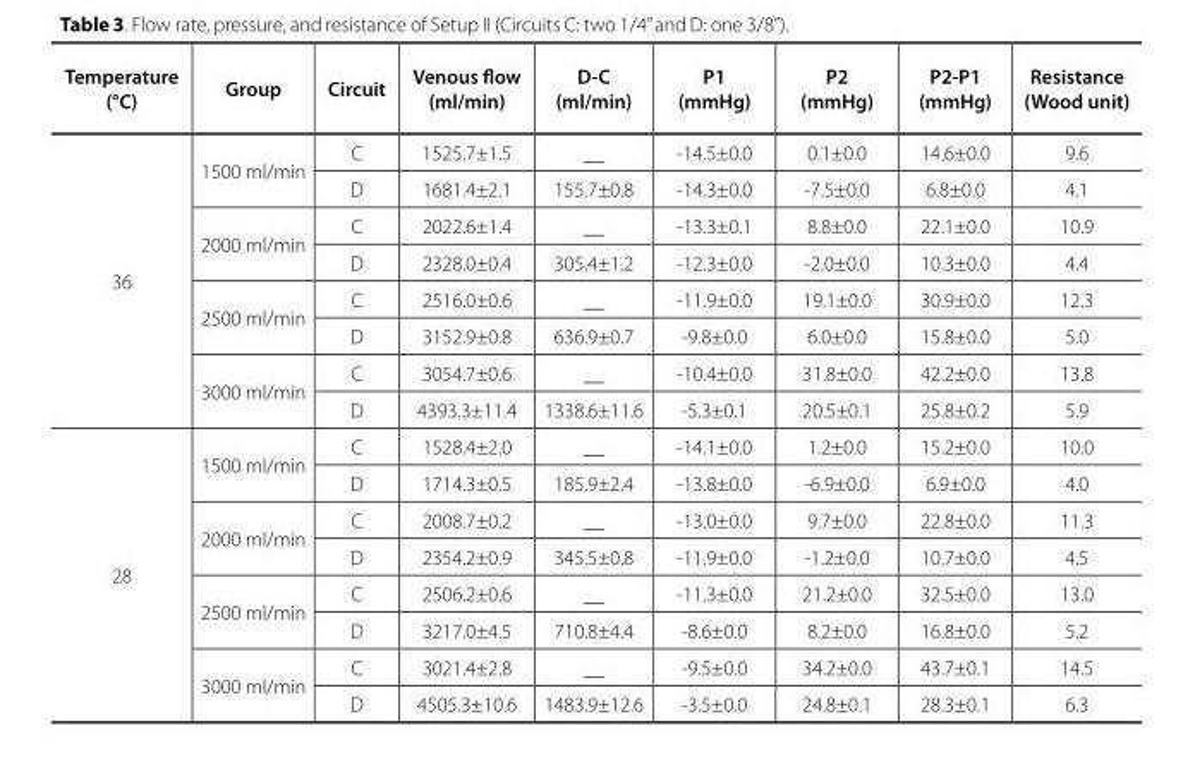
<table><thead><tr><td>Temperature (°C)</td><td>Group</td><td>Circuit</td><td>Venous flow (ml/min)</td><td>D-C (ml/min)</td><td>P1 (mmHg)</td><td>P2 (mmHg)</td><td>P2-P1 (mmHg)</td><td>Resistance (Wood unit)</td></tr></thead><tbody><tr><td rowspan="8">36</td><td rowspan="2">1500 ml/min</td><td>C</td><td>1525.7±1.5</td><td>__</td><td>-14.5±0.0</td><td>0.1±0.0</td><td>14.6±0.0</td><td>9.6</td></tr><tr><td>D</td><td>1681.4±2.1</td><td>155.7±0.8</td><td>-14.3±0.0</td><td>-7.5±0.0</td><td>6.8±0.0</td><td>4.1</td></tr><tr><td rowspan="2">2000 ml/min</td><td>C</td><td>2022.6±1.4</td><td>__</td><td>-13.3±0.1</td><td>8.8±0.0</td><td>22.1±0.0</td><td>10.9</td></tr><tr><td>D</td><td>2328.0±0.4</td><td>305.4±1.2</td><td>-12.3±0.0</td><td>-2.0±0.0</td><td>10.3±0.0</td><td>4.4</td></tr><tr><td rowspan="2">2500 ml/min</td><td>C</td><td>2516.0±0.6</td><td>__</td><td>-11.9±0.0</td><td>19.1±0.0</td><td>30.9±0.0</td><td>12.3</td></tr><tr><td>D</td><td>3152.9±0.8</td><td>636.9±0.7</td><td>-9.8±0.0</td><td>6.0±0.0</td><td>15.8±0.0</td><td>5.0</td></tr><tr><td rowspan="2">3000 ml/min</td><td>C</td><td>3054.7±0.6</td><td>__</td><td>-10.4±0.0</td><td>31.8±0.0</td><td>42.2±0.0</td><td>13.8</td></tr><tr><td>D</td><td>4393.3±11.4</td><td>1338.6±11.6</td><td>-5.3±0.1</td><td>20.5±0.1</td><td>25.8±0.2</td><td>5.9</td></tr><tr><td rowspan="8">28</td><td rowspan="2">1500 ml/min</td><td>C</td><td>1528.4±2.0</td><td>__</td><td>-14.1±0.0</td><td>1.2±0.0</td><td>15.2±0.0</td><td>10.0</td></tr><tr><td>D</td><td>1714.3±0.5</td><td>185.9±2.4</td><td>-13.8±0.0</td><td>-6.9±0.0</td><td>6.9±0.0</td><td>4.0</td></tr><tr><td rowspan="2">2000 ml/min</td><td>C</td><td>2008.7±0.2</td><td>__</td><td>-13.0±0.0</td><td>9.7±0.0</td><td>22.8±0.0</td><td>11.3</td></tr><tr><td>D</td><td>2354.2±0.9</td><td>345.5±0.8</td><td>-11.9±0.0</td><td>-1.2±0.0</td><td>10.7±0.0</td><td>4.5</td></tr><tr><td rowspan="2">2500 ml/min</td><td>C</td><td>2506.2±0.6</td><td>__</td><td>-11.3±0.0</td><td>21.2±0.0</td><td>32.5±0.0</td><td>13.0</td></tr><tr><td>D</td><td>3217.0±4.5</td><td>710.8±4.4</td><td>-8.6±0.0</td><td>8.2±0.0</td><td>16.8±0.0</td><td>5.2</td></tr><tr><td rowspan="2">3000 ml/min</td><td>C</td><td>3021.4±2.8</td><td>__</td><td>-9.5±0.0</td><td>34.2±0.0</td><td>43.7±0.1</td><td>14.5</td></tr><tr><td>D</td><td>4505.3±10.6</td><td>1483.9±12.6</td><td>-3.5±0.0</td><td>24.8±0.1</td><td>28.3±0.1</td><td>6.3</td></tr></tbody></table>